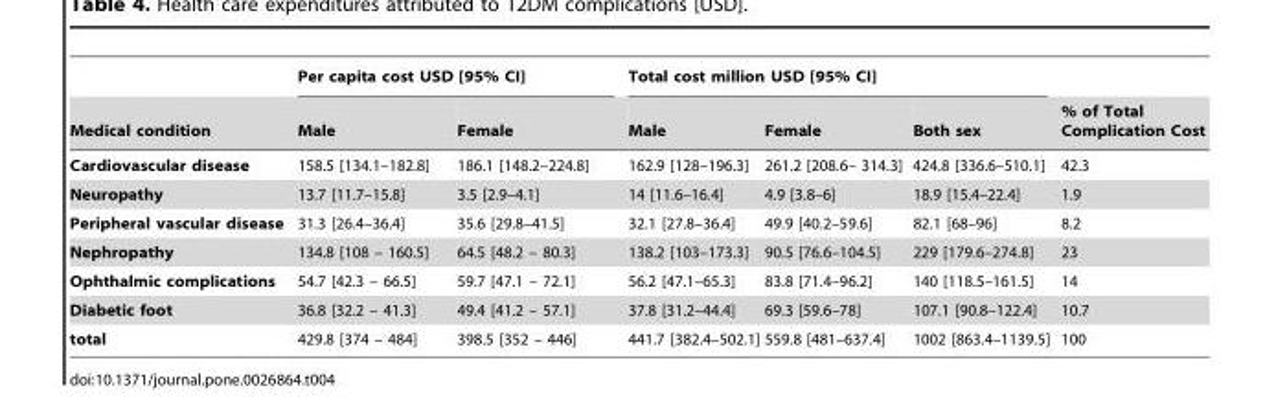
<table><thead><tr><td rowspan="2">Medical condition</td><td colspan="2">Per capita cost USD [95% CI]</td><td colspan="3">Total cost million USD [95% CI]</td><td rowspan="2">% of Total Complication Cost</td></tr><tr><td>Male</td><td>Female</td><td>Male</td><td>Female</td><td>Both sex</td></tr></thead><tbody><tr><td>Cardiovascular disease</td><td>158.5 [134.1–182.8]</td><td>186.1 [148.2–224.8]</td><td>162.9 [128–196.3]</td><td>261.2 [208.6– 314.3]</td><td>424.8 [336.6–510.1]</td><td>42.3</td></tr><tr><td>Neuropathy</td><td>13.7 [11.7–15.8]</td><td>3.5 [2.9–4.1]</td><td>14 [11.6–16.4]</td><td>4.9 [3.8–6]</td><td>18.9 [15.4–22.4]</td><td>1.9</td></tr><tr><td>Peripheral vascular disease</td><td>31.3 [26.4–36.4]</td><td>35.6 [29.8–41.5]</td><td>32.1 [27.8–36.4]</td><td>49.9 [40.2–59.6]</td><td>82.1 [68–96]</td><td>8.2</td></tr><tr><td>Nephropathy</td><td>134.8 [108 – 160.5]</td><td>64.5 [48.2 – 80.3]</td><td>138.2 [103–173.3]</td><td>90.5 [76.6–104.5]</td><td>229 [179.6–274.8]</td><td>23</td></tr><tr><td>Ophthalmic complications</td><td>54.7 [42.3 – 66.5]</td><td>59.7 [47.1 – 72.1]</td><td>56.2 [47.1–65.3]</td><td>83.8 [71.4–96.2]</td><td>140 [118.5–161.5]</td><td>14</td></tr><tr><td>Diabetic foot</td><td>36.8 [32.2 – 41.3]</td><td>49.4 [41.2 – 57.1]</td><td>37.8 [31.2–44.4]</td><td>69.3 [59.6–78]</td><td>107.1 [90.8–122.4]</td><td>10.7</td></tr><tr><td>total</td><td>429.8 [374 – 484]</td><td>398.5 [352 – 446]</td><td>441.7 [382.4–502.1]</td><td>559.8 [481–637.4]</td><td>1002 [863.4–1139.5]</td><td>100</td></tr></tbody></table>